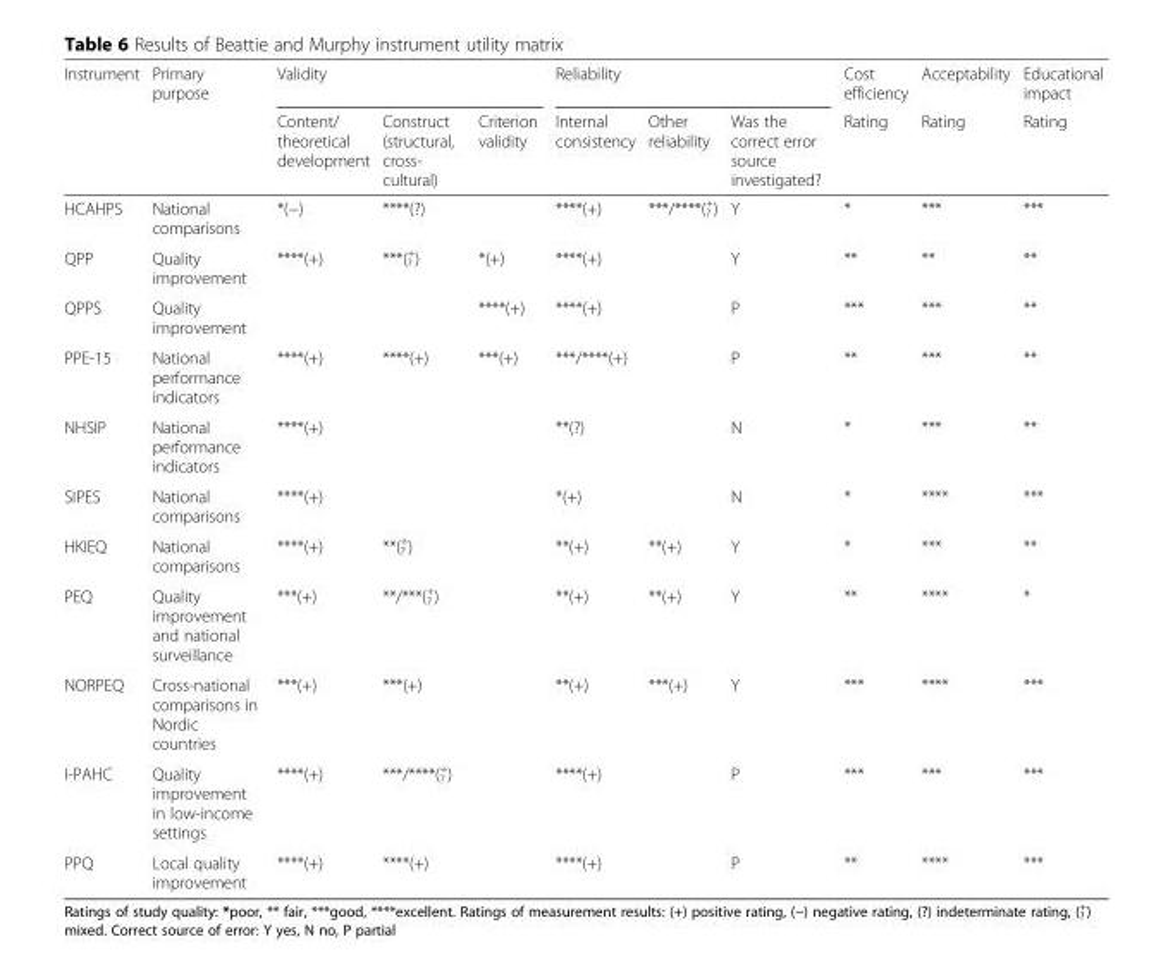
<table><thead><tr><td rowspan="2">Instrument</td><td rowspan="2">Primary purpose</td><td colspan="3">Validity</td><td colspan="3">Reliability</td><td rowspan="2">Cost efficiency Rating</td><td rowspan="2">Acceptability Rating</td><td rowspan="2">Educational impact Rating</td></tr><tr><td>Content/ theoretical development</td><td>Construct (structural, cross- cultural)</td><td>Criterion validity</td><td>Internal consistency</td><td>Other reliability</td><td>Was the correct error source investigated?</td></tr></thead><tbody><tr><td>HCAHPS</td><td>National comparisons</td><td>*(−)</td><td>****(?)</td><td></td><td>****(+)</td><td>***/****(<sup>+</sup> <sub>?</sub> )</td><td>Y</td><td>*</td><td>***</td><td>***</td></tr><tr><td>QPP</td><td>Quality improvement</td><td>****(+)</td><td>***(<sup>+</sup> <sub>?</sub> )</td><td>*(+)</td><td>****(+)</td><td></td><td>Y</td><td>**</td><td>**</td><td>**</td></tr><tr><td>QPPS</td><td>Quality improvement</td><td></td><td></td><td>****(+)</td><td>****(+)</td><td></td><td>P</td><td>***</td><td>***</td><td>**</td></tr><tr><td>PPE-15</td><td>National performance indicators</td><td>****(+)</td><td>****(+)</td><td>***(+)</td><td>***/****(+)</td><td></td><td>P</td><td>**</td><td>***</td><td>**</td></tr><tr><td>NHSIP</td><td>National performance indicators</td><td>****(+)</td><td></td><td></td><td>**(?)</td><td></td><td>N</td><td>*</td><td>***</td><td>**</td></tr><tr><td>SIPES</td><td>National comparisons</td><td>****(+)</td><td></td><td></td><td>*(+)</td><td></td><td>N</td><td>*</td><td>****</td><td>***</td></tr><tr><td>HKIEQ</td><td>National comparisons</td><td>****(+)</td><td>**(<sup>+</sup> <sub>?</sub> )</td><td></td><td>**(+)</td><td>**(+)</td><td>Y</td><td>*</td><td>***</td><td>**</td></tr><tr><td>PEQ</td><td>Quality improvement and national surveillance</td><td>***(+)</td><td>**/***(<sup>+</sup> <sub>?</sub> )</td><td></td><td>**(+)</td><td>**(+)</td><td>Y</td><td>**</td><td>****</td><td>*</td></tr><tr><td>NORPEQ</td><td>Cross-national comparisons in Nordic countries</td><td>***(+)</td><td>***(+)</td><td></td><td>**(+)</td><td>***(+)</td><td>Y</td><td>***</td><td>****</td><td>***</td></tr><tr><td>I-PAHC</td><td>Quality improvement in low-income settings</td><td>****(+)</td><td>***/****(<sup>+</sup> <sub>?</sub> )</td><td></td><td>****(+)</td><td></td><td>P</td><td>***</td><td>***</td><td>***</td></tr><tr><td>PPQ</td><td>Local quality improvement</td><td>****(+)</td><td>****(+)</td><td></td><td>****(+)</td><td></td><td>P</td><td>**</td><td>****</td><td>***</td></tr></tbody></table>